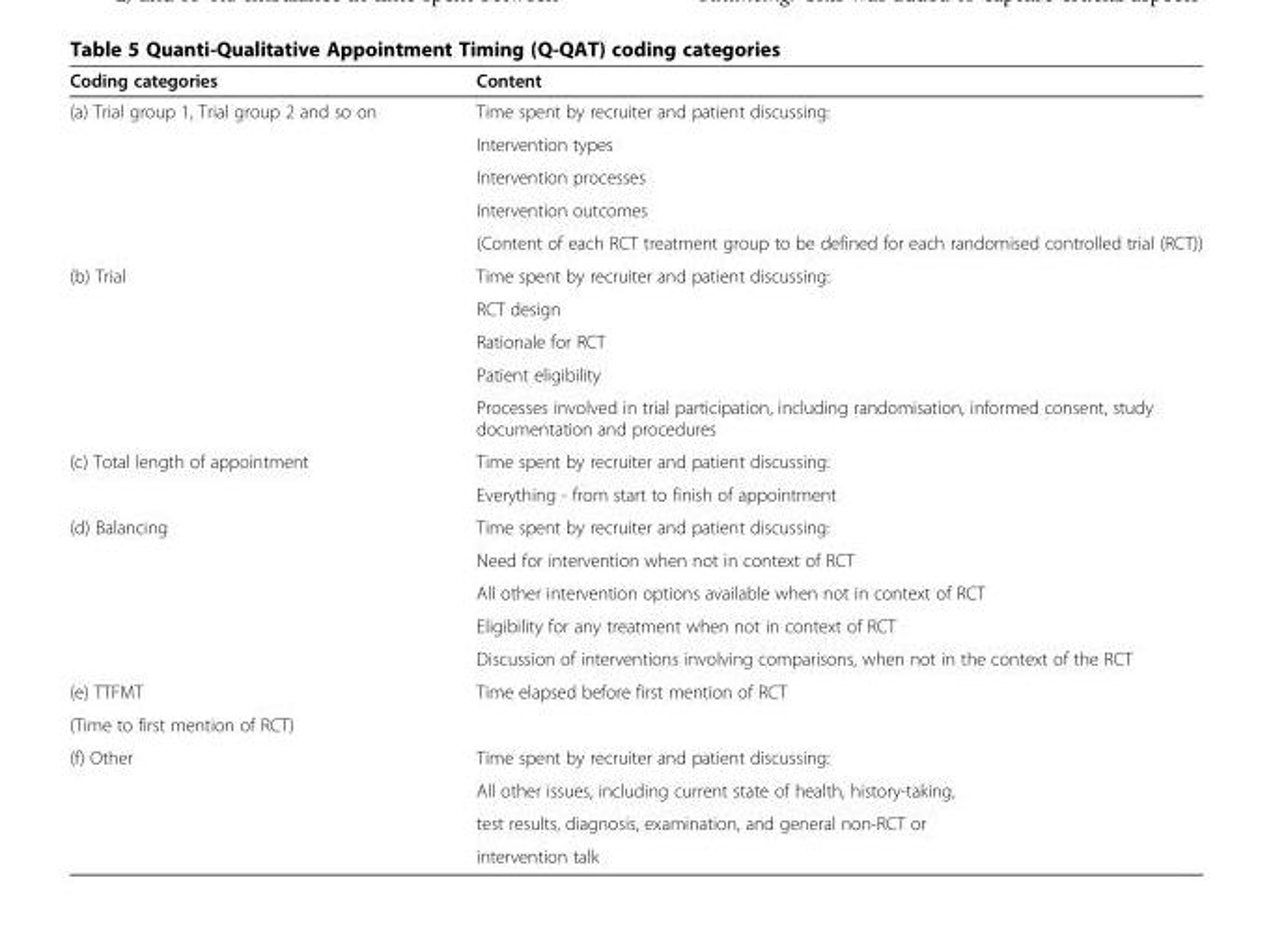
<table><thead><tr><td>Coding categories</td><td>Content</td></tr></thead><tbody><tr><td rowspan="5">(a) Trial group 1, Trial group 2 and so on</td><td>Time spent by recruiter and patient discussing:</td></tr><tr><td>Intervention types</td></tr><tr><td>Intervention processes</td></tr><tr><td>Intervention outcomes</td></tr><tr><td>(Content of each RCT treatment group to be defined for each randomised controlled trial (RCT))</td></tr><tr><td rowspan="5">(b) Trial</td><td>Time spent by recruiter and patient discussing:</td></tr><tr><td>RCT design</td></tr><tr><td>Rationale for RCT</td></tr><tr><td>Patient eligibility</td></tr><tr><td>Processes involved in trial participation, including randomisation, informed consent, study documentation and procedures</td></tr><tr><td rowspan="2">(c) Total length of appointment</td><td>Time spent by recruiter and patient discussing:</td></tr><tr><td>Everything - from start to finish of appointment</td></tr><tr><td rowspan="5">(d) Balancing</td><td>Time spent by recruiter and patient discussing:</td></tr><tr><td>Need for intervention when not in context of RCT</td></tr><tr><td>All other intervention options available when not in context of RCT</td></tr><tr><td>Eligibility for any treatment when not in context of RCT</td></tr><tr><td>Discussion of interventions involving comparisons, when not in the context of the RCT</td></tr><tr><td>(e) TTFMT</td><td>Time elapsed before first mention of RCT</td></tr><tr><td colspan="2">(Time to first mention of RCT)</td></tr><tr><td rowspan="4">(f) Other</td><td>Time spent by recruiter and patient discussing:</td></tr><tr><td>All other issues, including current state of health, history-taking,</td></tr><tr><td>test results, diagnosis, examination, and general non-RCT or</td></tr><tr><td>intervention talk</td></tr></tbody></table>